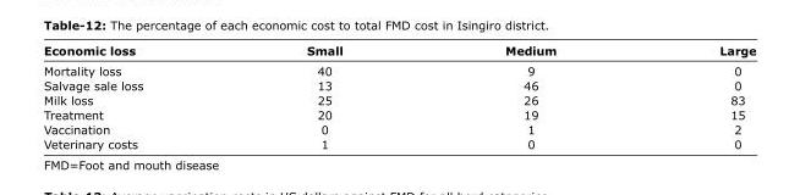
<table><thead><tr><td>Economic loss</td><td>Small</td><td>Medium</td><td>Large</td></tr></thead><tbody><tr><td>Mortality loss</td><td>40</td><td>9</td><td>0</td></tr><tr><td>Salvage sale loss</td><td>13</td><td>46</td><td>0</td></tr><tr><td>Milk loss</td><td>25</td><td>26</td><td>83</td></tr><tr><td>Treatment</td><td>20</td><td>19</td><td>15</td></tr><tr><td>Vaccination</td><td>0</td><td>1</td><td>2</td></tr><tr><td>Veterinary costs</td><td>1</td><td>0</td><td>0</td></tr></tbody></table>